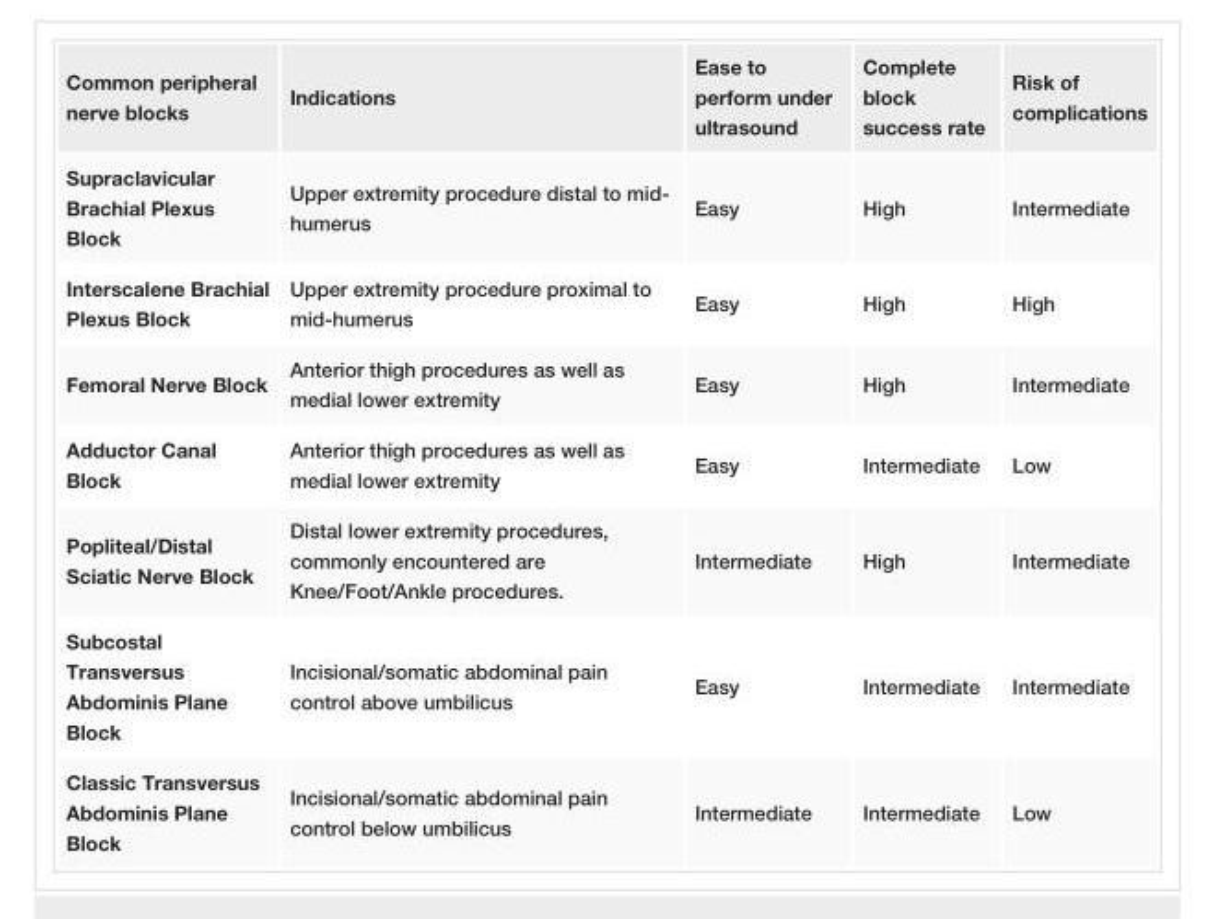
<table><tbody><tr><td>Common peripheral nerve blocks</td><td>Indications</td><td>Ease to perform under ultrasound</td><td>Complete block success rate</td><td>Risk of complications</td></tr><tr><td>Supraclavicular Brachial Plexus Block</td><td>Upper extremity procedure distal to mid- humerus</td><td>Easy</td><td>High</td><td>Intermediate</td></tr><tr><td>Interscalene Brachial Plexus Block</td><td>Upper extremity procedure proximal to mid-humerus</td><td>Easy</td><td>High</td><td>High</td></tr><tr><td>Femoral Nerve Block</td><td>Anterior thigh procedures as well as medial lower extremity</td><td>Easy</td><td>High</td><td>Intermediate</td></tr><tr><td>Adductor Canal Block</td><td>Anterior thigh procedures as well as medial lower extremity</td><td>Easy</td><td>Intermediate</td><td>Low</td></tr><tr><td>Popliteal/Distal Sciatic Nerve Block</td><td>Distal lower extremity procedures, commonly encountered are Knee/Foot/Ankle procedures.</td><td>Intermediate</td><td>High</td><td>Intermediate</td></tr><tr><td>Subcostal Transversus Abdominis Plane Block</td><td>Incisional/somatic abdominal pain control above umbilicus</td><td>Easy</td><td>Intermediate</td><td>Intermediate</td></tr><tr><td>Classic Transversus Abdominis Plane Block</td><td>Incisional/somatic abdominal pain control below umbilicus</td><td>Intermediate</td><td>Intermediate</td><td>Low</td></tr></tbody></table>